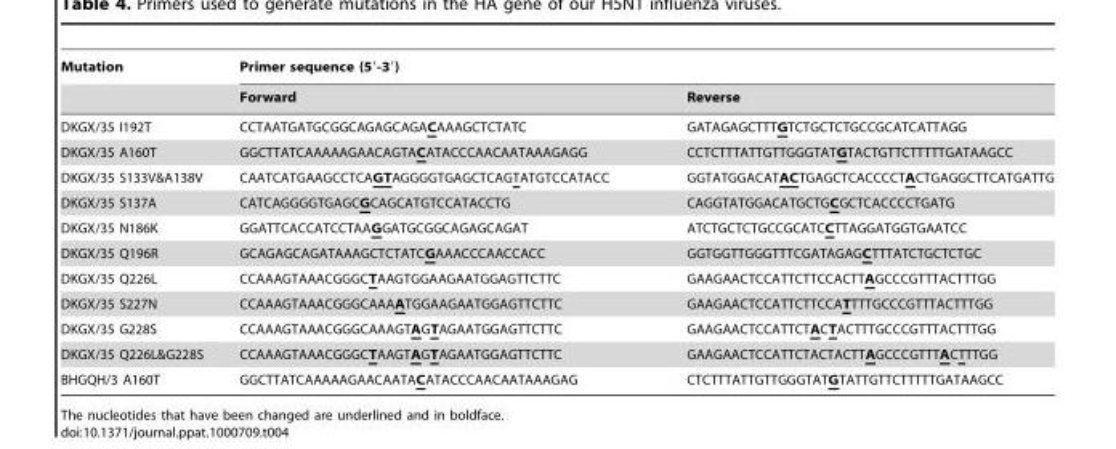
<table><thead><tr><td rowspan="2">Mutation</td><td colspan="2">Primer sequence (5′-3′)</td></tr><tr><td>Forward</td><td>Reverse</td></tr></thead><tbody><tr><td>DKGX/35 I192T</td><td>CCTAATGATGCGGCAGAGCAGACAAAGCTCTATC</td><td>GATAGAGCTTTGTCTGCTCTGCCGCATCATTAGG</td></tr><tr><td>DKGX/35 A160T</td><td>GGCTTATCAAAAAGAACAGTACATACCCAACAATAAAGAGG</td><td>CCTCTTTATTGTTGGGTATGTACTGTTCTTTTTGATAAGCC</td></tr><tr><td>DKGX/35 S133V&amp;A138V</td><td>CAATCATGAAGCCTCAGTAGGGGTGAGCTCAGTATGTCCATACC</td><td>GGTATGGACATACTGAGCTCACCCCTACTGAGGCTTCATGATTG</td></tr><tr><td>DKGX/35 S137A</td><td>CATCAGGGGTGAGCGCAGCATGTCCATACCTG</td><td>CAGGTATGGACATGCTGCGCTCACCCCTGATG</td></tr><tr><td>DKGX/35 N186K</td><td>GGATTCACCATCCTAAGGATGCGGCAGAGCAGAT</td><td>ATCTGCTCTGCCGCATCCTTAGGATGGTGAATCC</td></tr><tr><td>DKGX/35 Q196R</td><td>GCAGAGCAGATAAAGCTCTATCGAAACCCAACCACC</td><td>GGTGGTTGGGTTTCGATAGAGCTTTATCTGCTCTGC</td></tr><tr><td>DKGX/35 Q226L</td><td>CCAAAGTAAACGGGCTAAGTGGAAGAATGGAGTTCTTC</td><td>GAAGAACTCCATTCTTCCACTTAGCCCGTTTACTTTGG</td></tr><tr><td>DKGX/35 S227N</td><td>CCAAAGTAAACGGGCAAAATGGAAGAATGGAGTTCTTC</td><td>GAAGAACTCCATTCTTCCATTTTGCCCGTTTACTTTGG</td></tr><tr><td>DKGX/35 G228S</td><td>CCAAAGTAAACGGGCAAAGTAGTAGAATGGAGTTCTTC</td><td>GAAGAACTCCATTCTACTACTTTGCCCGTTTACTTTGG</td></tr><tr><td>DKGX/35 Q226L&amp;G228S</td><td>CCAAAGTAAACGGGCTAAGTAGTAGAATGGAGTTCTTC</td><td>GAAGAACTCCATTCTACTACTTAGCCCGTTTACTTTGG</td></tr><tr><td>BHGQH/3 A160T</td><td>GGCTTATCAAAAAGAACAATACATACCCAACAATAAAGAG</td><td>CTCTTTATTGTTGGGTATGTATTGTTCTTTTTGATAAGCC</td></tr></tbody></table>